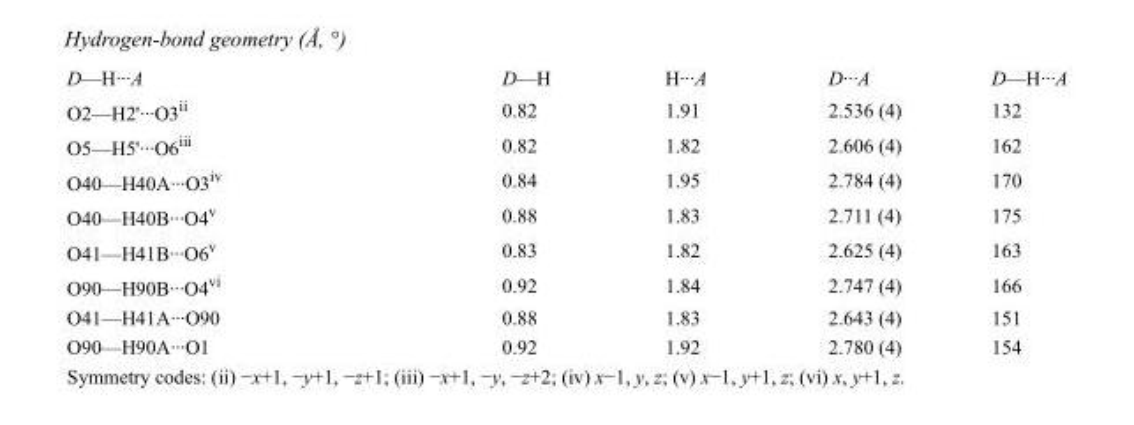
<table><tbody><tr><td>D—H···A</td><td>D—H</td><td>H···A</td><td>D···A</td><td>D—H···A</td></tr><tr><td>O2—H2&#x27;···O3<sup>ii</sup></td><td>0.82</td><td>1.91</td><td>2.536 (4)</td><td>132</td></tr><tr><td>O5—H5&#x27;···O6<sup>iii</sup></td><td>0.82</td><td>1.82</td><td>2.606 (4)</td><td>162</td></tr><tr><td>O40—H40A···O3<sup>iv</sup></td><td>0.84</td><td>1.95</td><td>2.784 (4)</td><td>170</td></tr><tr><td>O40—H40B···O4<sup>v</sup></td><td>0.88</td><td>1.83</td><td>2.711 (4)</td><td>175</td></tr><tr><td>O41—H41B···O6<sup>v</sup></td><td>0.83</td><td>1.82</td><td>2.625 (4)</td><td>163</td></tr><tr><td>O90—H90B···O4<sup>vi</sup></td><td>0.92</td><td>1.84</td><td>2.747 (4)</td><td>166</td></tr><tr><td>O41—H41A···O90</td><td>0.88</td><td>1.83</td><td>2.643 (4)</td><td>151</td></tr><tr><td>O90—H90A···O1</td><td>0.92</td><td>1.92</td><td>2.780 (4)</td><td>154</td></tr></tbody></table>